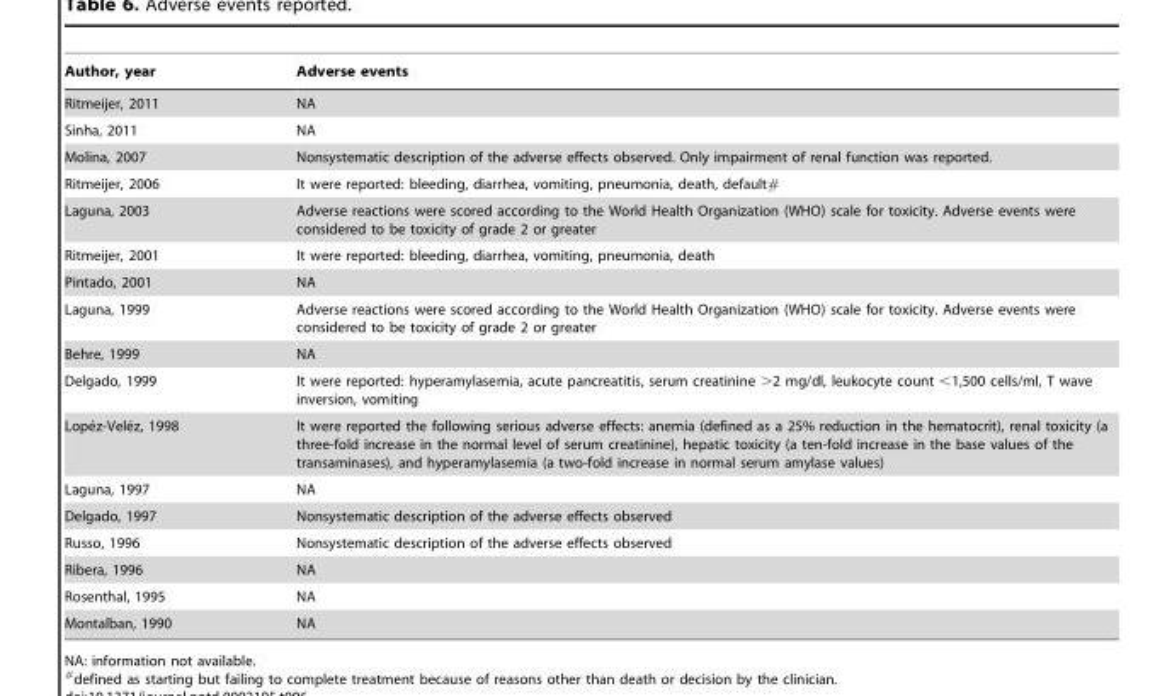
<table><thead><tr><td>Author, year</td><td>Adverse events</td></tr></thead><tbody><tr><td>Ritmeijer, 2011</td><td>NA</td></tr><tr><td>Sinha, 2011</td><td>NA</td></tr><tr><td>Molina, 2007</td><td>Nonsystematic description of the adverse effects observed. Only impairment of renal function was reported.</td></tr><tr><td>Ritmeijer, 2006</td><td>It were reported: bleeding, diarrhea, vomiting, pneumonia, death, default#</td></tr><tr><td>Laguna, 2003</td><td>Adverse reactions were scored according to the World Health Organization (WHO) scale for toxicity. Adverse events were considered to be toxicity of grade 2 or greater</td></tr><tr><td>Ritmeijer, 2001</td><td>It were reported: bleeding, diarrhea, vomiting, pneumonia, death</td></tr><tr><td>Pintado, 2001</td><td>NA</td></tr><tr><td>Laguna, 1999</td><td>Adverse reactions were scored according to the World Health Organization (WHO) scale for toxicity. Adverse events were considered to be toxicity of grade 2 or greater</td></tr><tr><td>Behre, 1999</td><td>NA</td></tr><tr><td>Delgado, 1999</td><td>It were reported: hyperamylasemia, acute pancreatitis, serum creatinine &gt;2 mg/dl, leukocyte count &lt;1,500 cells/ml, T wave inversion, vomiting</td></tr><tr><td>Lope´z-Vele´z, 1998</td><td>It were reported the following serious adverse effects: anemia (defined as a 25% reduction in the hematocrit), renal toxicity (a three-fold increase in the normal level of serum creatinine), hepatic toxicity (a ten-fold increase in the base values of the transaminases), and hyperamylasemia (a two-fold increase in normal serum amylase values)</td></tr><tr><td>Laguna, 1997</td><td>NA</td></tr><tr><td>Delgado, 1997</td><td>Nonsystematic description of the adverse effects observed</td></tr><tr><td>Russo, 1996</td><td>Nonsystematic description of the adverse effects observed</td></tr><tr><td>Ribera, 1996</td><td>NA</td></tr><tr><td>Rosenthal, 1995</td><td>NA</td></tr><tr><td>Montalban, 1990</td><td>NA</td></tr></tbody></table>